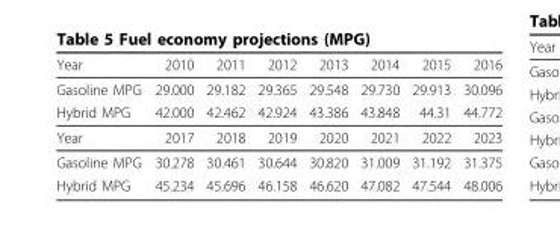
<table><thead><tr><td>Year</td><td>2010</td><td>2011</td><td>2012</td><td>2013</td><td>2014</td><td>2015</td><td>2016</td></tr></thead><tbody><tr><td>Gasoline MPG</td><td>29.000</td><td>29.182</td><td>29.365</td><td>29.548</td><td>29.730</td><td>29.913</td><td>30.096</td></tr><tr><td>Hybrid MPG</td><td>42.000</td><td>42.462</td><td>42.924</td><td>43.386</td><td>43.848</td><td>44.31</td><td>44.772</td></tr><tr><td>Year</td><td>2017</td><td>2018</td><td>2019</td><td>2020</td><td>2021</td><td>2022</td><td>2023</td></tr><tr><td>Gasoline MPG</td><td>30.278</td><td>30.461</td><td>30.644</td><td>30.820</td><td>31.009</td><td>31.192</td><td>31.375</td></tr><tr><td>Hybrid MPG</td><td>45.234</td><td>45.696</td><td>46.158</td><td>46.620</td><td>47.082</td><td>47.544</td><td>48.006</td></tr></tbody></table>